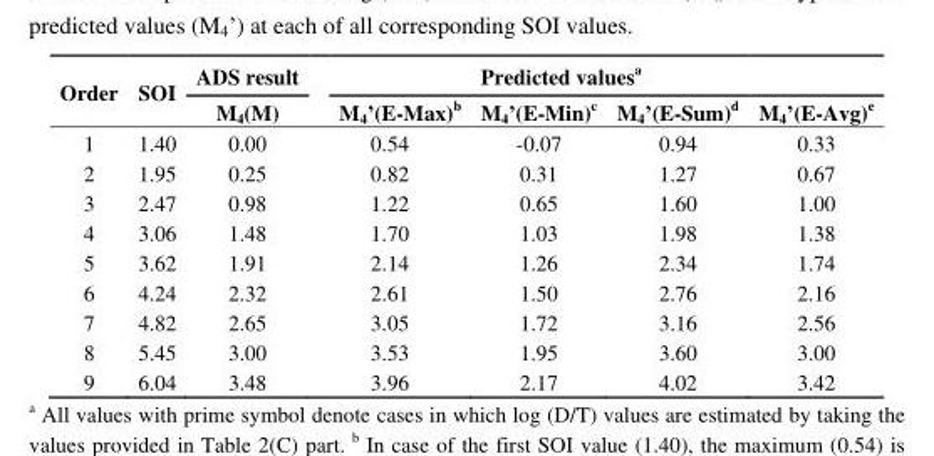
<table><thead><tr><td rowspan="2">Order</td><td rowspan="2">SOI</td><td rowspan="2">ADS result M<sub>4</sub>(M)</td><td colspan="4">Predicted values<sup>a</sup></td></tr><tr><td>M<sub>4</sub>’(E-Max)<sup>b</sup></td><td>M<sub>4</sub>’(E-Min)<sup>c</sup></td><td>M<sub>4</sub>’(E-Sum)<sup>d</sup></td><td>M<sub>4</sub>’(E-Avg)<sup>e</sup></td></tr></thead><tbody><tr><td>1</td><td>1.40</td><td>0.00</td><td>0.54</td><td>-0.07</td><td>0.94</td><td>0.33</td></tr><tr><td>2</td><td>1.95</td><td>0.25</td><td>0.82</td><td>0.31</td><td>1.27</td><td>0.67</td></tr><tr><td>3</td><td>2.47</td><td>0.98</td><td>1.22</td><td>0.65</td><td>1.60</td><td>1.00</td></tr><tr><td>4</td><td>3.06</td><td>1.48</td><td>1.70</td><td>1.03</td><td>1.98</td><td>1.38</td></tr><tr><td>5</td><td>3.62</td><td>1.91</td><td>2.14</td><td>1.26</td><td>2.34</td><td>1.74</td></tr><tr><td>6</td><td>4.24</td><td>2.32</td><td>2.61</td><td>1.50</td><td>2.76</td><td>2.16</td></tr><tr><td>7</td><td>4.82</td><td>2.65</td><td>3.05</td><td>1.72</td><td>3.16</td><td>2.56</td></tr><tr><td>8</td><td>5.45</td><td>3.00</td><td>3.53</td><td>1.95</td><td>3.60</td><td>3.00</td></tr><tr><td>9</td><td>6.04</td><td>3.48</td><td>3.96</td><td>2.17</td><td>4.02</td><td>3.42</td></tr></tbody></table>